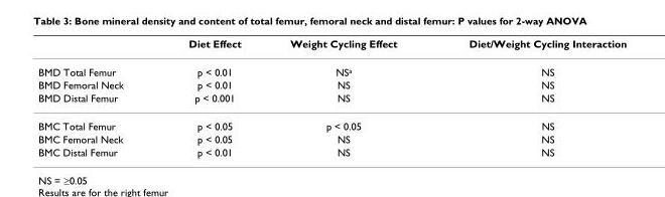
<table><thead><tr><td></td><td>Diet Effect</td><td>Weight Cycling Effect</td><td>Diet/Weight Cycling Interaction</td></tr></thead><tbody><tr><td>BMD Total Femur</td><td>p &lt; 0.01</td><td>NSa</td><td>NS</td></tr><tr><td>BMD Femoral Neck</td><td>p &lt; 0.01</td><td>NS</td><td>NS</td></tr><tr><td>BMD Distal Femur</td><td>p &lt; 0.001</td><td>NS</td><td>NS</td></tr><tr><td>BMC Total Femur</td><td>p &lt; 0.05</td><td>p &lt; 0.05</td><td>NS</td></tr><tr><td>BMC Femoral Neck</td><td>p &lt; 0.05</td><td>NS</td><td>NS</td></tr><tr><td>BMC Distal Femur</td><td>p &lt; 0.01</td><td>NS</td><td>NS</td></tr></tbody></table>